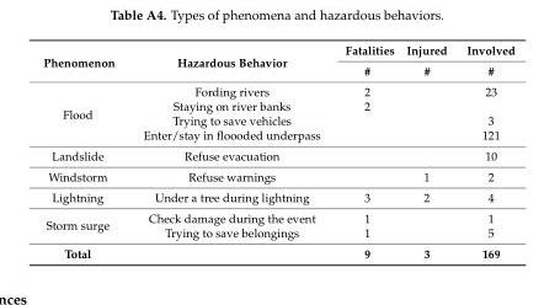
<table><thead><tr><td rowspan="2">Phenomenon</td><td rowspan="2">Hazardous Behavior</td><td rowspan="2">Fatalities #</td><td rowspan="2">Injured #</td><td rowspan="2">Involved #</td></tr><tr></tr></thead><tbody><tr><td rowspan="4">Flood</td><td>Fording rivers</td><td>2</td><td></td><td>23</td></tr><tr><td>Staying on river banks</td><td>2</td><td></td><td></td></tr><tr><td>Trying to save vehicles</td><td></td><td></td><td>3</td></tr><tr><td>Enter/stay in floooded underpass</td><td></td><td></td><td>121</td></tr><tr><td>Landslide</td><td>Refuse evacuation</td><td></td><td></td><td>10</td></tr><tr><td>Windstorm</td><td>Refuse warnings</td><td></td><td>1</td><td>2</td></tr><tr><td>Lightning</td><td>Under a tree during lightning</td><td>3</td><td>2</td><td>4</td></tr><tr><td rowspan="2">Storm surge</td><td>Check damage during the event</td><td>1</td><td></td><td>1</td></tr><tr><td>Trying to save belongings</td><td>1</td><td></td><td>5</td></tr><tr><td>Total</td><td></td><td>9</td><td>3</td><td>169</td></tr></tbody></table>